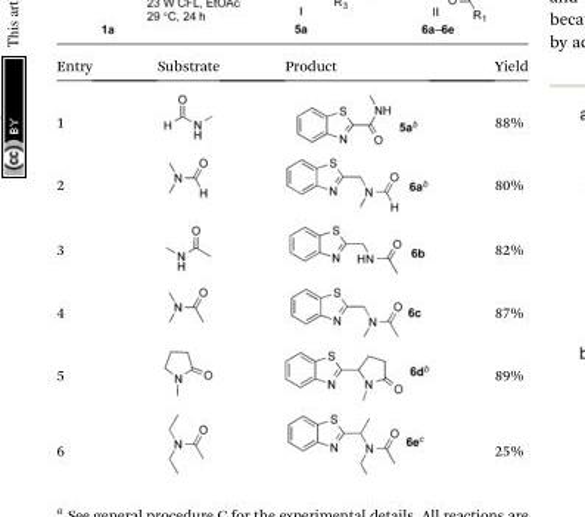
<table><thead><tr><td>Entry</td><td>Substrate</td><td>Product</td><td>Yield</td></tr></thead><tbody><tr><td>1</td><td></td><td></td><td>88%</td></tr><tr><td>2</td><td></td><td></td><td>80%</td></tr><tr><td>3</td><td></td><td></td><td>82%</td></tr><tr><td>4</td><td></td><td></td><td>87%</td></tr><tr><td>5</td><td></td><td></td><td>89%</td></tr><tr><td>6</td><td></td><td></td><td>25%</td></tr></tbody></table>